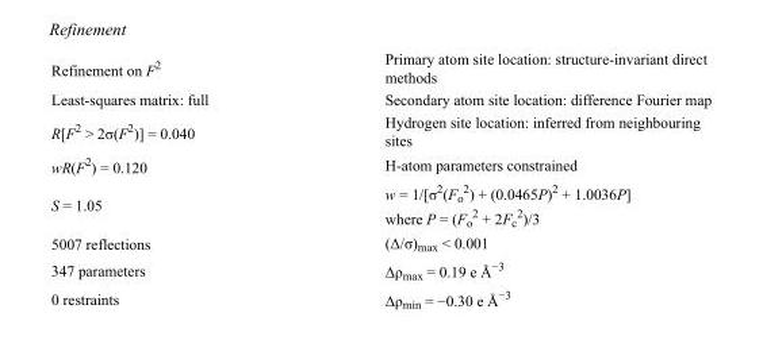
<table><tbody><tr><td>Refinement on F<sup>2</sup></td><td>Primary atom site location: structure-invariant direct methods</td></tr><tr><td>Least-squares matrix: full</td><td>Secondary atom site location: difference Fourier map</td></tr><tr><td>R[F<sup>2</sup> &gt; 2σ(F<sup>2</sup>)] = 0.040</td><td>Hydrogen site location: inferred from neighbouring sites</td></tr><tr><td>wR(F<sup>2</sup>) = 0.120</td><td>H-atom parameters constrained</td></tr><tr><td>S = 1.05</td><td>w = 1/[σ<sup>2</sup>(F<sub>o</sub> <sup>2</sup>) + (0.0465P)<sup>2</sup> + 1.0036P] where P = (F<sub>o</sub> <sup>2</sup> + 2F<sub>c</sub> <sup>2</sup>)/3</td></tr><tr><td>5007 reflections</td><td>(Δ/σ)<sub>max</sub> &lt; 0.001</td></tr><tr><td>347 parameters</td><td>Δρ<sub>max</sub> = 0.19 e Å<sup>−3</sup></td></tr><tr><td>0 restraints</td><td>Δρ<sub>min</sub> = −0.30 e Å<sup>−3</sup></td></tr></tbody></table>